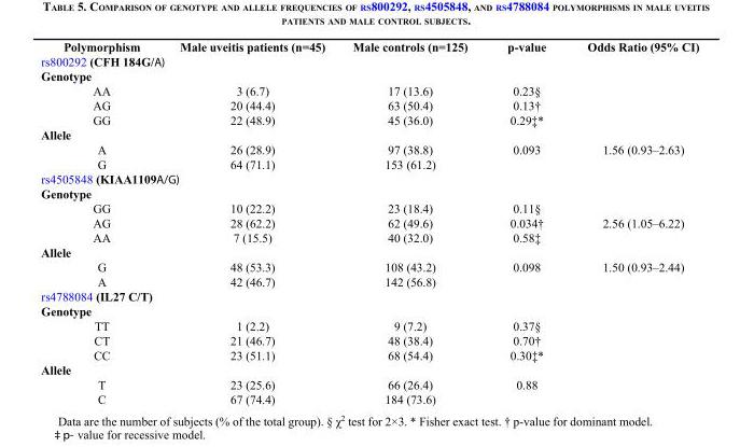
<table><thead><tr><td>Polymorphism</td><td>Male uveitis patients (n=45)</td><td>Male controls (n=125)</td><td>p-value</td><td>Odds Ratio (95% CI)</td></tr></thead><tbody><tr><td colspan="5">rs800292 (CFH 184G/A)</td></tr><tr><td colspan="5">Genotype</td></tr><tr><td>AA</td><td>3 (6.7)</td><td>17 (13.6)</td><td>0.23§</td><td></td></tr><tr><td>AG</td><td>20 (44.4)</td><td>63 (50.4)</td><td>0.13†</td><td></td></tr><tr><td>GG</td><td>22 (48.9)</td><td>45 (36.0)</td><td>0.29‡*</td><td></td></tr><tr><td colspan="5">Allele</td></tr><tr><td>A</td><td>26 (28.9)</td><td>97 (38.8)</td><td>0.093</td><td>1.56 (0.93–2.63)</td></tr><tr><td>G</td><td>64 (71.1)</td><td>153 (61.2)</td><td></td><td></td></tr><tr><td colspan="5">rs4505848 (KIAA1109A/G)</td></tr><tr><td colspan="5">Genotype</td></tr><tr><td>GG</td><td>10 (22.2)</td><td>23 (18.4)</td><td>0.11§</td><td></td></tr><tr><td>AG</td><td>28 (62.2)</td><td>62 (49.6)</td><td>0.034†</td><td>2.56 (1.05–6.22)</td></tr><tr><td>AA</td><td>7 (15.5)</td><td>40 (32.0)</td><td>0.58‡</td><td></td></tr><tr><td colspan="5">Allele</td></tr><tr><td>G</td><td>48 (53.3)</td><td>108 (43.2)</td><td>0.098</td><td>1.50 (0.93–2.44)</td></tr><tr><td>A</td><td>42 (46.7)</td><td>142 (56.8)</td><td></td><td></td></tr><tr><td colspan="5">rs4788084 (IL27 C/T)</td></tr><tr><td colspan="5">Genotype</td></tr><tr><td>TT</td><td>1 (2.2)</td><td>9 (7.2)</td><td>0.37§</td><td></td></tr><tr><td>CT</td><td>21 (46.7)</td><td>48 (38.4)</td><td>0.70†</td><td></td></tr><tr><td>CC</td><td>23 (51.1)</td><td>68 (54.4)</td><td>0.30‡*</td><td></td></tr><tr><td colspan="5">Allele</td></tr><tr><td>T</td><td>23 (25.6)</td><td>66 (26.4)</td><td>0.88</td><td></td></tr><tr><td>C</td><td>67 (74.4)</td><td>184 (73.6)</td><td></td><td></td></tr></tbody></table>